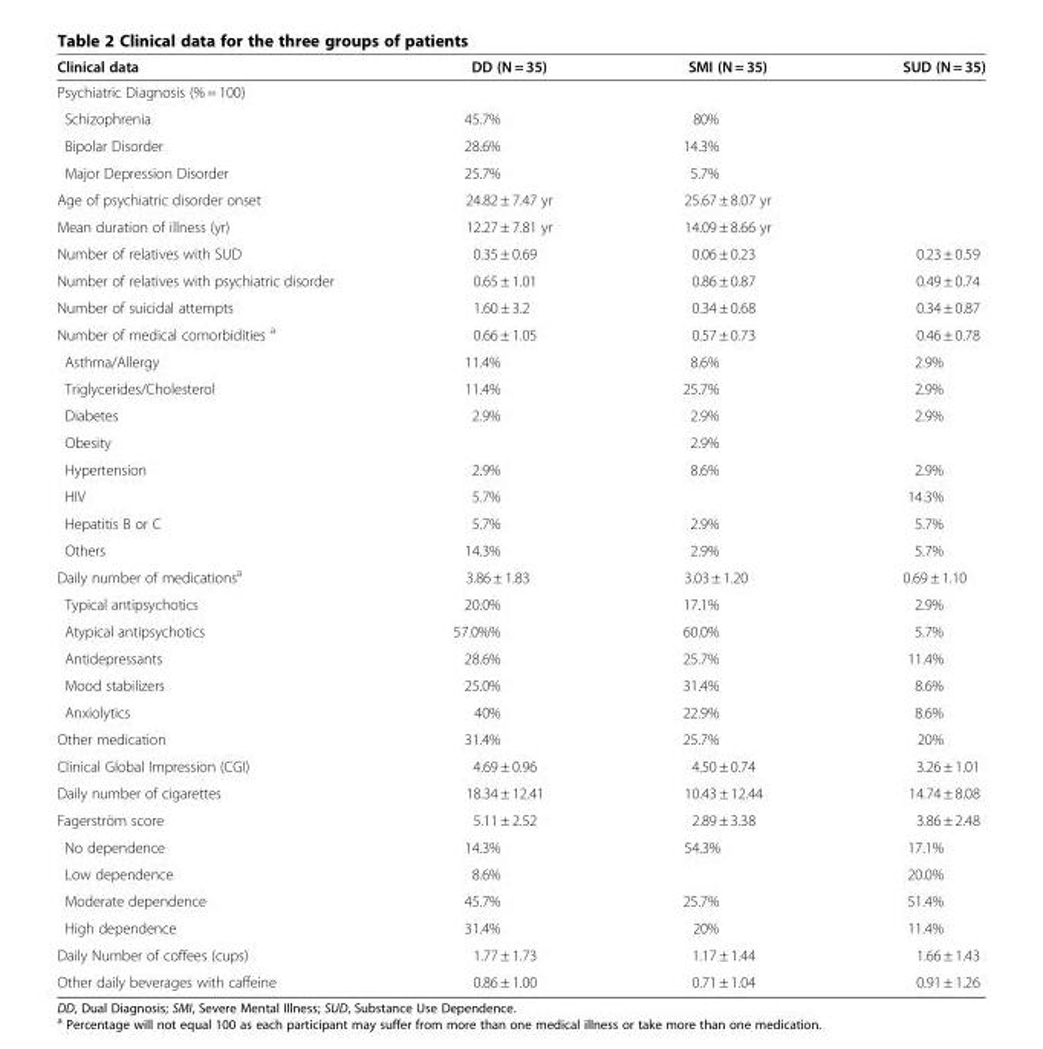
<table><thead><tr><td>Clinical data</td><td>DD (N = 35)</td><td>SMI (N = 35)</td><td>SUD (N = 35)</td></tr></thead><tbody><tr><td colspan="4">Psychiatric Diagnosis (% = 100)</td></tr><tr><td>Schizophrenia</td><td>45.7%</td><td>80%</td><td></td></tr><tr><td>Bipolar Disorder</td><td>28.6%</td><td>14.3%</td><td></td></tr><tr><td>Major Depression Disorder</td><td>25.7%</td><td>5.7%</td><td></td></tr><tr><td>Age of psychiatric disorder onset</td><td>24.82 ± 7.47 yr</td><td>25.67 ± 8.07 yr</td><td></td></tr><tr><td>Mean duration of illness (yr)</td><td>12.27 ± 7.81 yr</td><td>14.09 ± 8.66 yr</td><td></td></tr><tr><td>Number of relatives with SUD</td><td>0.35 ± 0.69</td><td>0.06 ± 0.23</td><td>0.23 ± 0.59</td></tr><tr><td>Number of relatives with psychiatric disorder</td><td>0.65 ± 1.01</td><td>0.86 ± 0.87</td><td>0.49 ± 0.74</td></tr><tr><td>Number of suicidal attempts</td><td>1.60 ± 3.2</td><td>0.34 ± 0.68</td><td>0.34 ± 0.87</td></tr><tr><td>Number of medical comorbidities <sup>a</sup></td><td>0.66 ± 1.05</td><td>0.57 ± 0.73</td><td>0.46 ± 0.78</td></tr><tr><td>Asthma/Allergy</td><td>11.4%</td><td>8.6%</td><td>2.9%</td></tr><tr><td>Triglycerides/Cholesterol</td><td>11.4%</td><td>25.7%</td><td>2.9%</td></tr><tr><td>Diabetes</td><td>2.9%</td><td>2.9%</td><td>2.9%</td></tr><tr><td>Obesity</td><td></td><td>2.9%</td><td></td></tr><tr><td>Hypertension</td><td>2.9%</td><td>8.6%</td><td>2.9%</td></tr><tr><td>HIV</td><td>5.7%</td><td></td><td>14.3%</td></tr><tr><td>Hepatitis B or C</td><td>5.7%</td><td>2.9%</td><td>5.7%</td></tr><tr><td>Others</td><td>14.3%</td><td>2.9%</td><td>5.7%</td></tr><tr><td>Daily number of medications<sup>a</sup></td><td>3.86 ± 1.83</td><td>3.03 ± 1.20</td><td>0.69 ± 1.10</td></tr><tr><td>Typical antipsychotics</td><td>20.0%</td><td>17.1%</td><td>2.9%</td></tr><tr><td>Atypical antipsychotics</td><td>57.0%%</td><td>60.0%</td><td>5.7%</td></tr><tr><td>Antidepressants</td><td>28.6%</td><td>25.7%</td><td>11.4%</td></tr><tr><td>Mood stabilizers</td><td>25.0%</td><td>31.4%</td><td>8.6%</td></tr><tr><td>Anxiolytics</td><td>40%</td><td>22.9%</td><td>8.6%</td></tr><tr><td>Other medication</td><td>31.4%</td><td>25.7%</td><td>20%</td></tr><tr><td>Clinical Global Impression (CGI)</td><td>4.69 ± 0.96</td><td>4.50 ± 0.74</td><td>3.26 ± 1.01</td></tr><tr><td>Daily number of cigarettes</td><td>18.34 ± 12.41</td><td>10.43 ± 12.44</td><td>14.74 ± 8.08</td></tr><tr><td>Fagerström score</td><td>5.11 ± 2.52</td><td>2.89 ± 3.38</td><td>3.86 ± 2.48</td></tr><tr><td>No dependence</td><td>14.3%</td><td>54.3%</td><td>17.1%</td></tr><tr><td>Low dependence</td><td>8.6%</td><td></td><td>20.0%</td></tr><tr><td>Moderate dependence</td><td>45.7%</td><td>25.7%</td><td>51.4%</td></tr><tr><td>High dependence</td><td>31.4%</td><td>20%</td><td>11.4%</td></tr><tr><td>Daily Number of coffees (cups)</td><td>1.77 ± 1.73</td><td>1.17 ± 1.44</td><td>1.66 ± 1.43</td></tr><tr><td>Other daily beverages with caffeine</td><td>0.86 ± 1.00</td><td>0.71 ± 1.04</td><td>0.91 ± 1.26</td></tr></tbody></table>